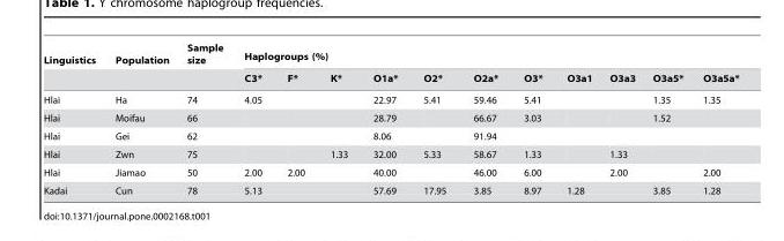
<table><thead><tr><td rowspan="2">Linguistics</td><td rowspan="2">Population</td><td rowspan="2">Sample size</td><td colspan="11">Haplogroups (%)</td></tr><tr><td>C3*</td><td>F*</td><td>K*</td><td>O1a*</td><td>O2*</td><td>O2a*</td><td>O3*</td><td>O3a1</td><td>O3a3</td><td>O3a5*</td><td>O3a5a*</td></tr></thead><tbody><tr><td>Hlai</td><td>Ha</td><td>74</td><td>4.05</td><td></td><td></td><td>22.97</td><td>5.41</td><td>59.46</td><td>5.41</td><td></td><td></td><td>1.35</td><td>1.35</td></tr><tr><td>Hlai</td><td>Moifau</td><td>66</td><td></td><td></td><td></td><td>28.79</td><td></td><td>66.67</td><td>3.03</td><td></td><td></td><td>1.52</td><td></td></tr><tr><td>Hlai</td><td>Gei</td><td>62</td><td></td><td></td><td></td><td>8.06</td><td></td><td>91.94</td><td></td><td></td><td></td><td></td><td></td></tr><tr><td>Hlai</td><td>Zwn</td><td>75</td><td></td><td></td><td>1.33</td><td>32.00</td><td>5.33</td><td>58.67</td><td>1.33</td><td></td><td>1.33</td><td></td><td></td></tr><tr><td>Hlai</td><td>Jiamao</td><td>50</td><td>2.00</td><td>2.00</td><td></td><td>40.00</td><td></td><td>46.00</td><td>6.00</td><td></td><td>2.00</td><td></td><td>2.00</td></tr><tr><td>Kadai</td><td>Cun</td><td>78</td><td>5.13</td><td></td><td></td><td>57.69</td><td>17.95</td><td>3.85</td><td>8.97</td><td>1.28</td><td></td><td>3.85</td><td>1.28</td></tr></tbody></table>